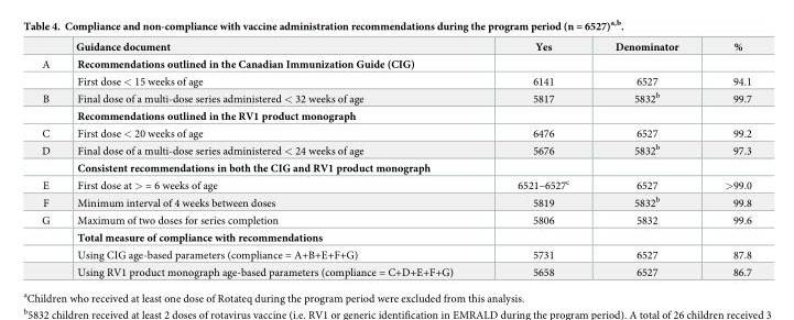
<table><thead><tr><td></td><td>Guidance document</td><td>Yes</td><td>Denominator</td><td>%</td></tr></thead><tbody><tr><td rowspan="2">A</td><td>Recommendations outlined in the Canadian Immunization Guide (CIG)</td><td></td><td></td><td></td></tr><tr><td>First dose &lt; 15 weeks of age</td><td>6141</td><td>6527</td><td>94.1</td></tr><tr><td rowspan="2">B</td><td>Final dose of a multi-dose series administered &lt; 32 weeks of age</td><td>5817</td><td>5832<sup>b</sup></td><td>99.7</td></tr><tr><td>Recommendations outlined in the RV1 product monograph</td><td></td><td></td><td></td></tr><tr><td>C</td><td>First dose &lt; 20 weeks of age</td><td>6476</td><td>6527</td><td>99.2</td></tr><tr><td rowspan="2">D</td><td>Final dose of a multi-dose series administered &lt; 24 weeks of age</td><td>5676</td><td>5832<sup>b</sup></td><td>97.3</td></tr><tr><td>Consistent recommendations in both the CIG and RV1 product monograph</td><td></td><td></td><td></td></tr><tr><td>E</td><td>First dose at &gt; = 6 weeks of age</td><td>6521–6527<sup>c</sup></td><td>6527</td><td>&gt;99.0</td></tr><tr><td>F</td><td>Minimum interval of 4 weeks between doses</td><td>5819</td><td>5832<sup>b</sup></td><td>99.8</td></tr><tr><td rowspan="4">G</td><td>Maximum of two doses for series completion</td><td>5806</td><td>5832</td><td>99.6</td></tr><tr><td>Total measure of compliance with recommendations</td><td></td><td></td><td></td></tr><tr><td>Using CIG age-based parameters (compliance = A+B+E+F+G)</td><td>5731</td><td>6527</td><td>87.8</td></tr><tr><td>Using RV1 product monograph age-based parameters (compliance = C+D+E+F+G)</td><td>5658</td><td>6527</td><td>86.7</td></tr></tbody></table>